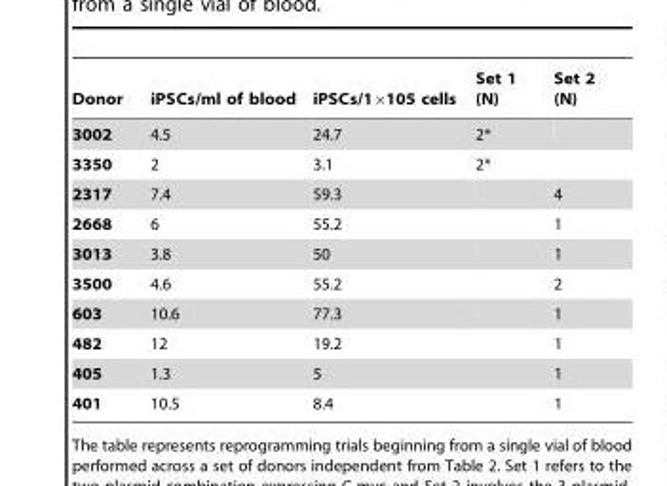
<table><thead><tr><td>Donor</td><td>iPSCs/ml of blood</td><td>iPSCs/1×105 cells</td><td>Set 1 (N)</td><td>Set 2 (N)</td></tr></thead><tbody><tr><td>3002</td><td>4.5</td><td>24.7</td><td>2*</td><td></td></tr><tr><td>3350</td><td>2</td><td>3.1</td><td>2*</td><td></td></tr><tr><td>2317</td><td>7.4</td><td>59.3</td><td></td><td>4</td></tr><tr><td>2668</td><td>6</td><td>55.2</td><td></td><td>1</td></tr><tr><td>3013</td><td>3.8</td><td>50</td><td></td><td>1</td></tr><tr><td>3500</td><td>4.6</td><td>55.2</td><td></td><td>2</td></tr><tr><td>603</td><td>10.6</td><td>77.3</td><td></td><td>1</td></tr><tr><td>482</td><td>12</td><td>19.2</td><td></td><td>1</td></tr><tr><td>405</td><td>1.3</td><td>5</td><td></td><td>1</td></tr><tr><td>401</td><td>10.5</td><td>8.4</td><td></td><td>1</td></tr></tbody></table>